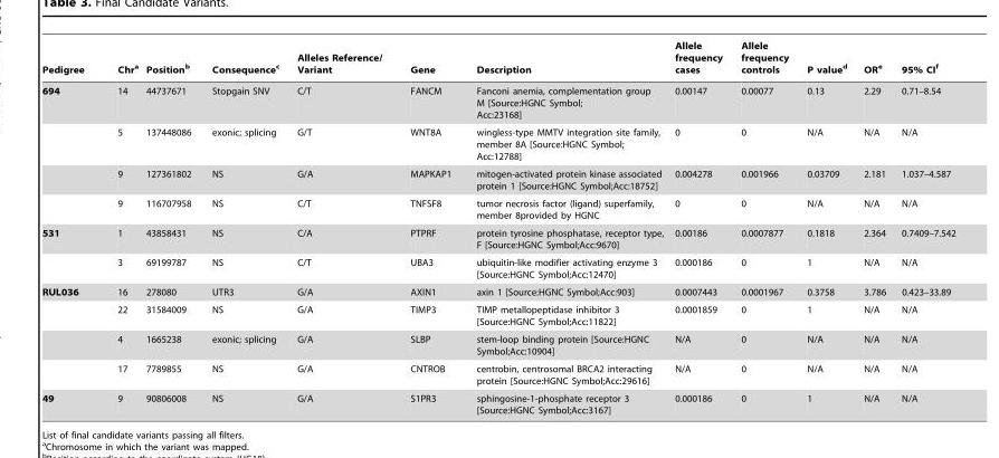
<table><thead><tr><td>Pedigree</td><td>Chr<sup>a</sup></td><td>Position<sup>b</sup></td><td>Consequence<sup>c</sup></td><td>Alleles Reference/ Variant</td><td>Gene</td><td>Description</td><td>Allele frequency cases</td><td>Allele frequency controls</td><td>P value<sup>d</sup></td><td>OR<sup>e</sup></td><td>95% CI<sup>f</sup></td></tr></thead><tbody><tr><td rowspan="4">694</td><td>14</td><td>44737671</td><td>Stopgain SNV</td><td>C/T</td><td>FANCM</td><td>Fanconi anemia, complementation group M [Source:HGNC Symbol; Acc:23168]</td><td>0.00147</td><td>0.00077</td><td>0.13</td><td>2.29</td><td>0.71–8.54</td></tr><tr><td>5</td><td>137448086</td><td>exonic; splicing</td><td>G/T</td><td>WNT8A</td><td>wingless-type MMTV integration site family, member 8A [Source:HGNC Symbol; Acc:12788]</td><td>0</td><td>0</td><td>N/A</td><td>N/A</td><td>N/A</td></tr><tr><td>9</td><td>127361802</td><td>NS</td><td>G/A</td><td>MAPKAP1</td><td>mitogen-activated protein kinase associated protein 1 [Source:HGNC Symbol;Acc:18752]</td><td>0.004278</td><td>0.001966</td><td>0.03709</td><td>2.181</td><td>1.037–4.587</td></tr><tr><td>9</td><td>116707958</td><td>NS</td><td>C/T</td><td>TNFSF8</td><td>tumor necrosis factor (ligand) superfamily, member 8provided by HGNC</td><td>0</td><td>0</td><td>N/A</td><td>N/A</td><td>N/A</td></tr><tr><td rowspan="2">531</td><td>1</td><td>43858431</td><td>NS</td><td>C/A</td><td>PTPRF</td><td>protein tyrosine phosphatase, receptor type, F [Source:HGNC Symbol;Acc:9670]</td><td>0.00186</td><td>0.0007877</td><td>0.1818</td><td>2.364</td><td>0.7409–7.542</td></tr><tr><td>3</td><td>69199787</td><td>NS</td><td>C/T</td><td>UBA3</td><td>ubiquitin-like modifier activating enzyme 3 [Source:HGNC Symbol;Acc:12470]</td><td>0.000186</td><td>0</td><td>1</td><td>N/A</td><td>N/A</td></tr><tr><td rowspan="4">RUL036</td><td>16</td><td>278080</td><td>UTR3</td><td>G/A</td><td>AXIN1</td><td>axin 1 [Source:HGNC Symbol;Acc:903]</td><td>0.0007443</td><td>0.0001967</td><td>0.3758</td><td>3.786</td><td>0.423–33.89</td></tr><tr><td>22</td><td>31584009</td><td>NS</td><td>G/A</td><td>TIMP3</td><td>TIMP metallopeptidase inhibitor 3 [Source:HGNC Symbol;Acc:11822]</td><td>0.0001859</td><td>0</td><td>1</td><td>N/A</td><td>N/A</td></tr><tr><td>4</td><td>1665238</td><td>exonic; splicing</td><td>G/A</td><td>SLBP</td><td>stem-loop binding protein [Source:HGNC Symbol;Acc:10904]</td><td>N/A</td><td>0</td><td>N/A</td><td>N/A</td><td>N/A</td></tr><tr><td>17</td><td>7789855</td><td>NS</td><td>G/A</td><td>CNTROB</td><td>centrobin, centrosomal BRCA2 interacting protein [Source:HGNC Symbol;Acc:29616]</td><td>N/A</td><td>0</td><td>N/A</td><td>N/A</td><td>N/A</td></tr><tr><td>49</td><td>9</td><td>90806008</td><td>NS</td><td>G/A</td><td>S1PR3</td><td>sphingosine-1-phosphate receptor 3 [Source:HGNC Symbol;Acc:3167]</td><td>0.000186</td><td>0</td><td>1</td><td>N/A</td><td>N/A</td></tr></tbody></table>